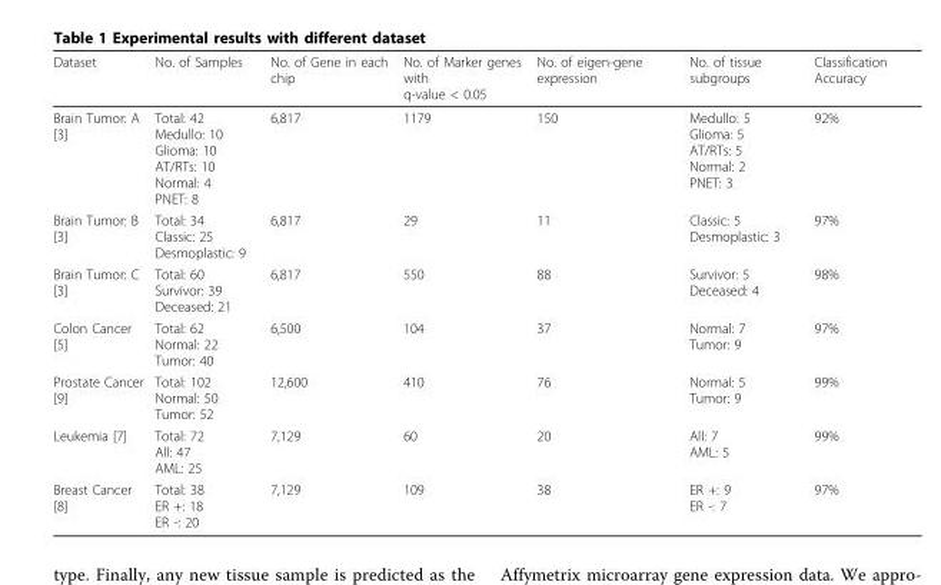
<table><thead><tr><td>Dataset</td><td>No. of Samples</td><td>No. of Gene in each chip</td><td>No. of Marker genes with q-value &lt; 0.05</td><td>No. of eigen-gene expression</td><td>No. of tissue subgroups</td><td>Classification Accuracy</td></tr></thead><tbody><tr><td>Brain Tumor: A [3]</td><td>Total: 42 Medullo: 10 Glioma: 10 AT/RTs: 10 Normal: 4 PNET: 8</td><td>6,817</td><td>1179</td><td>150</td><td>Medullo: 5 Glioma: 5 AT/RTs: 5 Normal: 2 PNET: 3</td><td>92%</td></tr><tr><td>Brain Tumor: B [3]</td><td>Total: 34 Classic: 25 Desmoplastic: 9</td><td>6,817</td><td>29</td><td>11</td><td>Classic: 5 Desmoplastic: 3</td><td>97%</td></tr><tr><td>Brain Tumor: C [3]</td><td>Total: 60 Survivor: 39 Deceased: 21</td><td>6,817</td><td>550</td><td>88</td><td>Survivor: 5 Deceased: 4</td><td>98%</td></tr><tr><td>Colon Cancer [5]</td><td>Total: 62 Normal: 22 Tumor: 40</td><td>6,500</td><td>104</td><td>37</td><td>Normal: 7 Tumor: 9</td><td>97%</td></tr><tr><td>Prostate Cancer [9]</td><td>Total: 102 Normal: 50 Tumor: 52</td><td>12,600</td><td>410</td><td>76</td><td>Normal: 5 Tumor: 9</td><td>99%</td></tr><tr><td>Leukemia [7]</td><td>Total: 72 All: 47 AML: 25</td><td>7,129</td><td>60</td><td>20</td><td>All: 7 AML: 5</td><td>99%</td></tr><tr><td>Breast Cancer [8]</td><td>Total: 38 ER +: 18 ER -: 20</td><td>7,129</td><td>109</td><td>38</td><td>ER +: 9 ER -: 7</td><td>97%</td></tr></tbody></table>